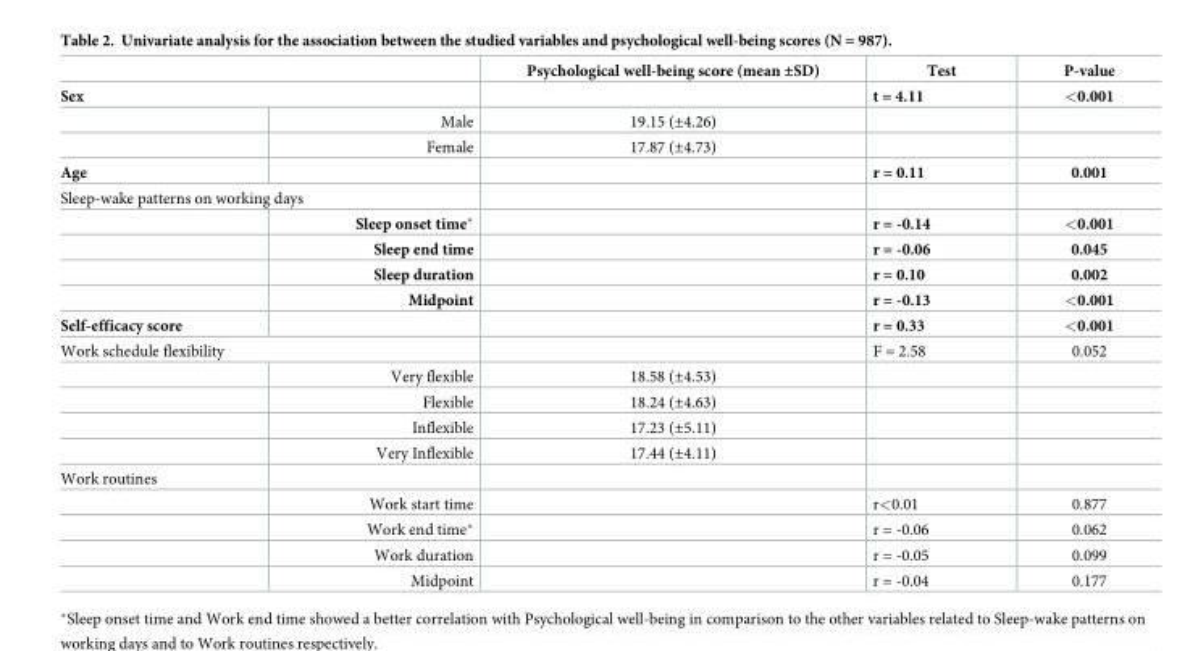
<table><thead><tr><td></td><td></td><td>Psychological well-being score (mean ±SD)</td><td>Test</td><td>P-value</td></tr></thead><tbody><tr><td colspan="2">Sex</td><td></td><td>t = 4.11</td><td>&lt;0.001</td></tr><tr><td></td><td>Male</td><td>19.15 (±4.26)</td><td></td><td></td></tr><tr><td></td><td>Female</td><td>17.87 (±4.73)</td><td></td><td></td></tr><tr><td>Age</td><td></td><td></td><td>r = 0.11</td><td>0.001</td></tr><tr><td colspan="5">Sleep-wake patterns on working days</td></tr><tr><td></td><td>Sleep onset time*</td><td></td><td>r = -0.14</td><td>&lt;0.001</td></tr><tr><td></td><td>Sleep end time</td><td></td><td>r = -0.06</td><td>0.045</td></tr><tr><td></td><td>Sleep duration</td><td></td><td>r = 0.10</td><td>0.002</td></tr><tr><td></td><td>Midpoint</td><td></td><td>r = -0.13</td><td>&lt;0.001</td></tr><tr><td>Self-efficacy score</td><td></td><td></td><td>r = 0.33</td><td>&lt;0.001</td></tr><tr><td colspan="2">Work schedule flexibility</td><td></td><td>F = 2.58</td><td>0.052</td></tr><tr><td></td><td>Very flexible</td><td>18.58 (±4.53)</td><td></td><td></td></tr><tr><td></td><td>Flexible</td><td>18.24 (±4.63)</td><td></td><td></td></tr><tr><td></td><td>Inflexible</td><td>17.23 (±5.11)</td><td></td><td></td></tr><tr><td></td><td>Very Inflexible</td><td>17.44 (±4.11)</td><td></td><td></td></tr><tr><td colspan="5">Work routines</td></tr><tr><td></td><td>Work start time</td><td></td><td>r&lt;0.01</td><td>0.877</td></tr><tr><td></td><td>Work end time*</td><td></td><td>r = -0.06</td><td>0.062</td></tr><tr><td></td><td>Work duration</td><td></td><td>r = -0.05</td><td>0.099</td></tr><tr><td></td><td>Midpoint</td><td></td><td>r = -0.04</td><td>0.177</td></tr></tbody></table>